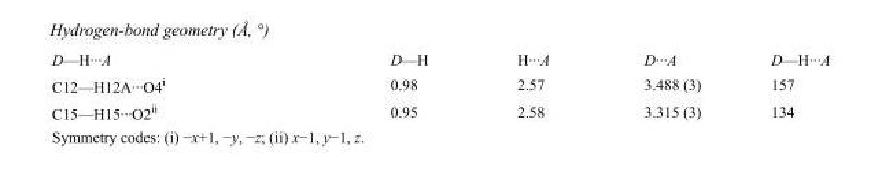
<table><tbody><tr><td>D—H···A</td><td>D—H</td><td>H···A</td><td>D···A</td><td>D—H···A</td></tr><tr><td>C12—H12A···O4<sup>i</sup></td><td>0.98</td><td>2.57</td><td>3.488 (3)</td><td>157</td></tr><tr><td>C15—H15···O2<sup>ii</sup></td><td>0.95</td><td>2.58</td><td>3.315 (3)</td><td>134</td></tr></tbody></table>